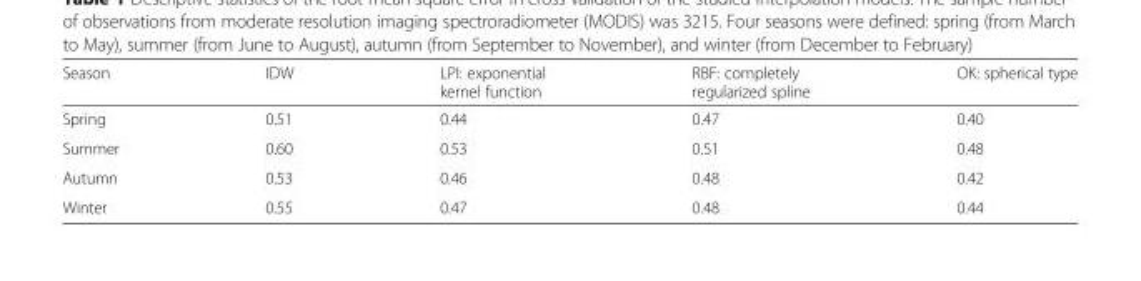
<table><thead><tr><td>Season</td><td>IDW</td><td>LPI: exponential kernel function</td><td>RBF: completely regularized spline</td><td>OK: spherical type</td></tr></thead><tbody><tr><td>Spring</td><td>0.51</td><td>0.44</td><td>0.47</td><td>0.40</td></tr><tr><td>Summer</td><td>0.60</td><td>0.53</td><td>0.51</td><td>0.48</td></tr><tr><td>Autumn</td><td>0.53</td><td>0.46</td><td>0.48</td><td>0.42</td></tr><tr><td>Winter</td><td>0.55</td><td>0.47</td><td>0.48</td><td>0.44</td></tr></tbody></table>